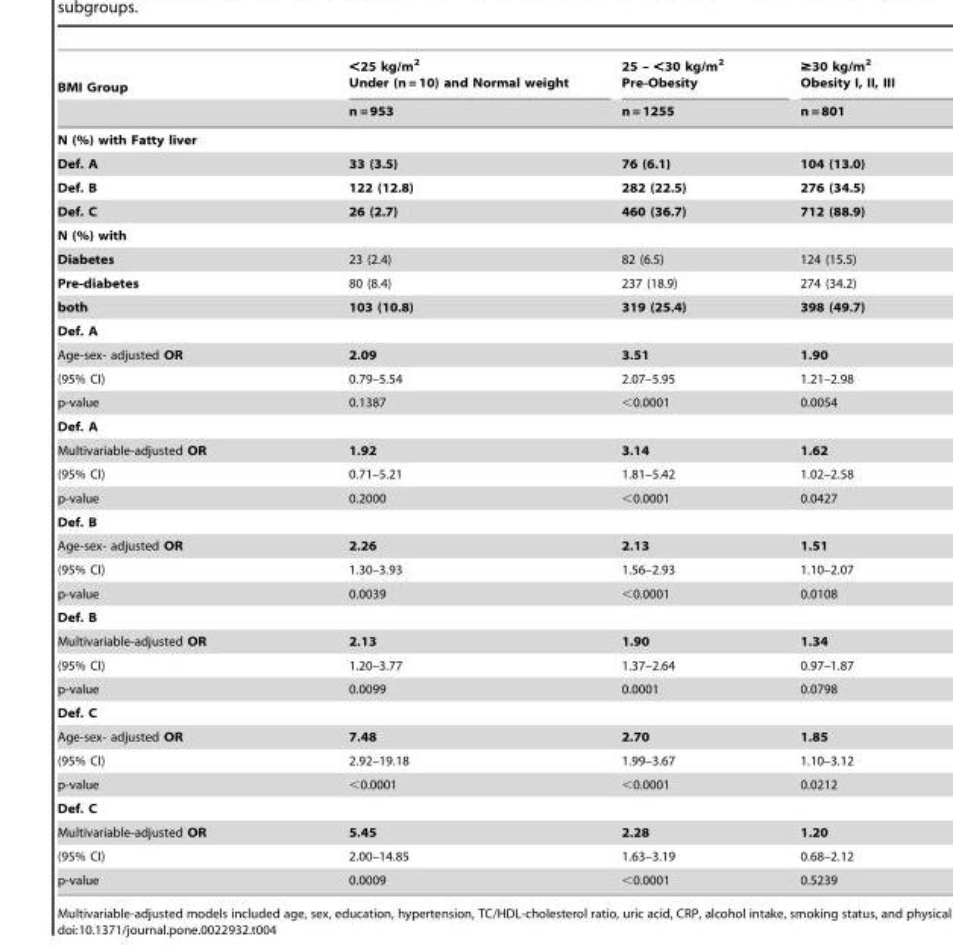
<table><thead><tr><td rowspan="2">BMI Group</td><td rowspan="2">&lt;25 kg/m<sup>2</sup> Under (n = 10) and Normal weight n = 953</td><td rowspan="2">25 – &lt;30 kg/m<sup>2</sup> Pre-Obesity n = 1255</td><td rowspan="2">≥30 kg/m<sup>2</sup> Obesity I, II, III n = 801</td></tr><tr></tr></thead><tbody><tr><td colspan="4">N (%) with Fatty liver</td></tr><tr><td>Def. A</td><td>33 (3.5)</td><td>76 (6.1)</td><td>104 (13.0)</td></tr><tr><td>Def. B</td><td>122 (12.8)</td><td>282 (22.5)</td><td>276 (34.5)</td></tr><tr><td>Def. C</td><td>26 (2.7)</td><td>460 (36.7)</td><td>712 (88.9)</td></tr><tr><td colspan="4">N (%) with</td></tr><tr><td>Diabetes</td><td>23 (2.4)</td><td>82 (6.5)</td><td>124 (15.5)</td></tr><tr><td>Pre-diabetes</td><td>80 (8.4)</td><td>237 (18.9)</td><td>274 (34.2)</td></tr><tr><td>both</td><td>103 (10.8)</td><td>319 (25.4)</td><td>398 (49.7)</td></tr><tr><td colspan="4">Def. A</td></tr><tr><td>Age-sex- adjusted OR</td><td>2.09</td><td>3.51</td><td>1.90</td></tr><tr><td>(95% CI)</td><td>0.79–5.54</td><td>2.07–5.95</td><td>1.21–2.98</td></tr><tr><td>p-value</td><td>0.1387</td><td>&lt;0.0001</td><td>0.0054</td></tr><tr><td colspan="4">Def. A</td></tr><tr><td>Multivariable-adjusted OR</td><td>1.92</td><td>3.14</td><td>1.62</td></tr><tr><td>(95% CI)</td><td>0.71–5.21</td><td>1.81–5.42</td><td>1.02–2.58</td></tr><tr><td>p-value</td><td>0.2000</td><td>&lt;0.0001</td><td>0.0427</td></tr><tr><td colspan="4">Def. B</td></tr><tr><td>Age-sex- adjusted OR</td><td>2.26</td><td>2.13</td><td>1.51</td></tr><tr><td>(95% CI)</td><td>1.30–3.93</td><td>1.56–2.93</td><td>1.10–2.07</td></tr><tr><td>p-value</td><td>0.0039</td><td>&lt;0.0001</td><td>0.0108</td></tr><tr><td colspan="4">Def. B</td></tr><tr><td>Multivariable-adjusted OR</td><td>2.13</td><td>1.90</td><td>1.34</td></tr><tr><td>(95% CI)</td><td>1.20–3.77</td><td>1.37–2.64</td><td>0.97–1.87</td></tr><tr><td>p-value</td><td>0.0099</td><td>0.0001</td><td>0.0798</td></tr><tr><td colspan="4">Def. C</td></tr><tr><td>Age-sex- adjusted OR</td><td>7.48</td><td>2.70</td><td>1.85</td></tr><tr><td>(95% CI)</td><td>2.92–19.18</td><td>1.99–3.67</td><td>1.10–3.12</td></tr><tr><td>p-value</td><td>&lt;0.0001</td><td>&lt;0.0001</td><td>0.0212</td></tr><tr><td colspan="4">Def. C</td></tr><tr><td>Multivariable-adjusted OR</td><td>5.45</td><td>2.28</td><td>1.20</td></tr><tr><td>(95% CI)</td><td>2.00–14.85</td><td>1.63–3.19</td><td>0.68–2.12</td></tr><tr><td>p-value</td><td>0.0009</td><td>&lt;0.0001</td><td>0.5239</td></tr></tbody></table>